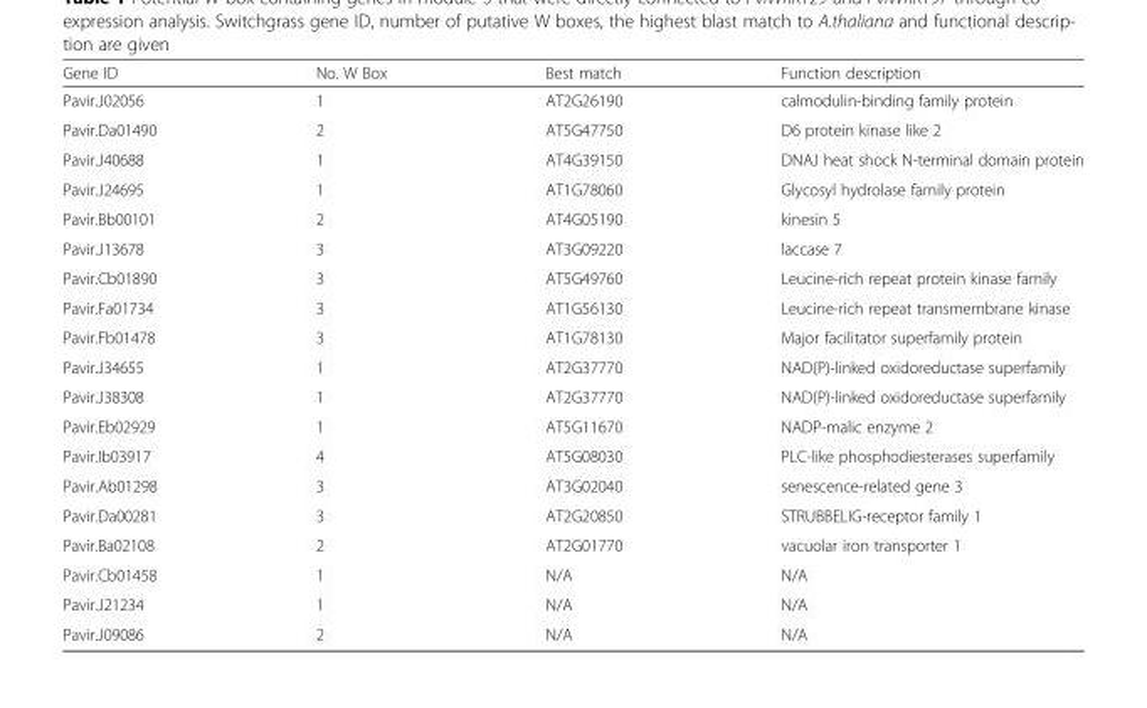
<table><thead><tr><td>Gene ID</td><td>No. W Box</td><td>Best match</td><td>Function description</td></tr></thead><tbody><tr><td>Pavir.J02056</td><td>1</td><td>AT2G26190</td><td>calmodulin-binding family protein</td></tr><tr><td>Pavir.Da01490</td><td>2</td><td>AT5G47750</td><td>D6 protein kinase like 2</td></tr><tr><td>Pavir.J40688</td><td>1</td><td>AT4G39150</td><td>DNAJ heat shock N-terminal domain protein</td></tr><tr><td>Pavir.J24695</td><td>1</td><td>AT1G78060</td><td>Glycosyl hydrolase family protein</td></tr><tr><td>Pavir.Bb00101</td><td>2</td><td>AT4G05190</td><td>kinesin 5</td></tr><tr><td>Pavir.J13678</td><td>3</td><td>AT3G09220</td><td>laccase 7</td></tr><tr><td>Pavir.Cb01890</td><td>3</td><td>AT5G49760</td><td>Leucine-rich repeat protein kinase family</td></tr><tr><td>Pavir.Fa01734</td><td>3</td><td>AT1G56130</td><td>Leucine-rich repeat transmembrane kinase</td></tr><tr><td>Pavir.Fb01478</td><td>3</td><td>AT1G78130</td><td>Major facilitator superfamily protein</td></tr><tr><td>Pavir.J34655</td><td>1</td><td>AT2G37770</td><td>NAD(P)-linked oxidoreductase superfamily</td></tr><tr><td>Pavir.J38308</td><td>1</td><td>AT2G37770</td><td>NAD(P)-linked oxidoreductase superfamily</td></tr><tr><td>Pavir.Eb02929</td><td>1</td><td>AT5G11670</td><td>NADP-malic enzyme 2</td></tr><tr><td>Pavir.Ib03917</td><td>4</td><td>AT5G08030</td><td>PLC-like phosphodiesterases superfamily</td></tr><tr><td>Pavir.Ab01298</td><td>3</td><td>AT3G02040</td><td>senescence-related gene 3</td></tr><tr><td>Pavir.Da00281</td><td>3</td><td>AT2G20850</td><td>STRUBBELIG-receptor family 1</td></tr><tr><td>Pavir.Ba02108</td><td>2</td><td>AT2G01770</td><td>vacuolar iron transporter 1</td></tr><tr><td>Pavir.Cb01458</td><td>1</td><td>N/A</td><td>N/A</td></tr><tr><td>Pavir.J21234</td><td>1</td><td>N/A</td><td>N/A</td></tr><tr><td>Pavir.J09086</td><td>2</td><td>N/A</td><td>N/A</td></tr></tbody></table>